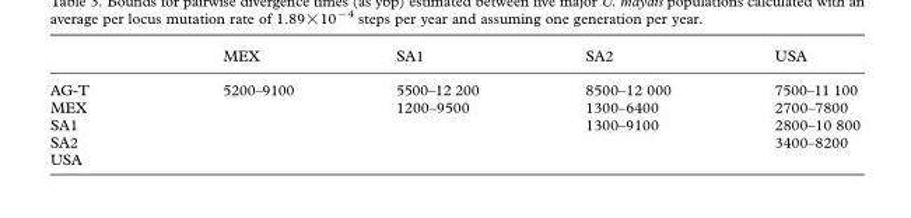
<table><thead><tr><td></td><td>MEX</td><td>SA1</td><td>SA2</td><td>USA</td></tr></thead><tbody><tr><td>AG-T</td><td>5200–9100</td><td>5500–12 200</td><td>8500–12 000</td><td>7500–11 100</td></tr><tr><td>MEX</td><td></td><td>1200–9500</td><td>1300–6400</td><td>2700–7800</td></tr><tr><td>SA1</td><td></td><td></td><td>1300–9100</td><td>2800–10 800</td></tr><tr><td>SA2</td><td></td><td></td><td></td><td>3400–8200</td></tr><tr><td>USA</td><td></td><td></td><td></td><td></td></tr></tbody></table>